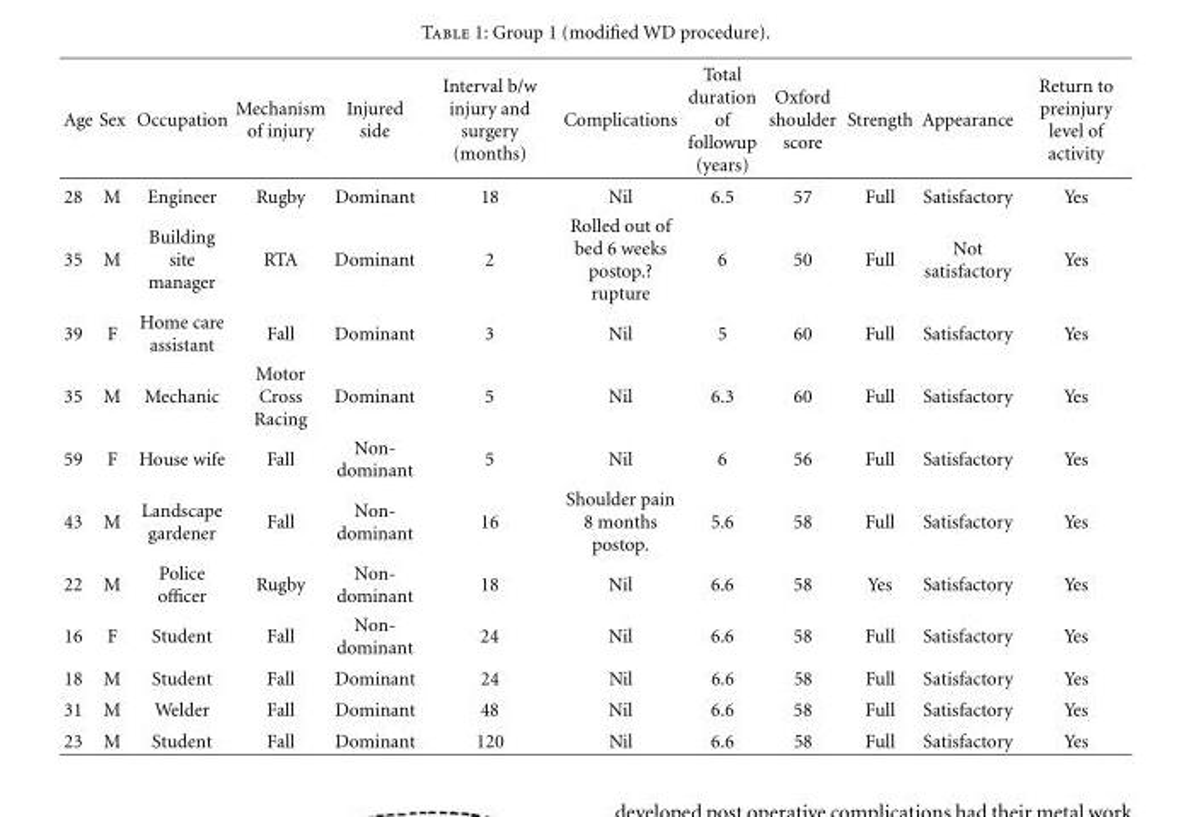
<table><thead><tr><td>Age</td><td>Sex</td><td>Occupation</td><td>Mechanism of injury</td><td>Injured side</td><td>Interval b/w injury and surgery (months)</td><td>Complications</td><td>Total duration of followup (years)</td><td>Oxford shoulder score</td><td>Strength</td><td>Appearance</td><td>Return to preinjury level of activity</td></tr></thead><tbody><tr><td>28</td><td>M</td><td>Engineer</td><td>Rugby</td><td>Dominant</td><td>18</td><td>Nil</td><td>6.5</td><td>57</td><td>Full</td><td>Satisfactory</td><td>Yes</td></tr><tr><td>35</td><td>M</td><td>Building site manager</td><td>RTA</td><td>Dominant</td><td>2</td><td>Rolled out of bed 6 weeks postop.? rupture</td><td>6</td><td>50</td><td>Full</td><td>Not satisfactory</td><td>Yes</td></tr><tr><td>39</td><td>F</td><td>Home care assistant</td><td>Fall</td><td>Dominant</td><td>3</td><td>Nil</td><td>5</td><td>60</td><td>Full</td><td>Satisfactory</td><td>Yes</td></tr><tr><td>35</td><td>M</td><td>Mechanic</td><td>Motor Cross Racing</td><td>Dominant</td><td>5</td><td>Nil</td><td>6.3</td><td>60</td><td>Full</td><td>Satisfactory</td><td>Yes</td></tr><tr><td>59</td><td>F</td><td>House wife</td><td>Fall</td><td>Non- dominant</td><td>5</td><td>Nil</td><td>6</td><td>56</td><td>Full</td><td>Satisfactory</td><td>Yes</td></tr><tr><td>43</td><td>M</td><td>Landscape gardener</td><td>Fall</td><td>Non- dominant</td><td>16</td><td>Shoulder pain 8 months postop.</td><td>5.6</td><td>58</td><td>Full</td><td>Satisfactory</td><td>Yes</td></tr><tr><td>22</td><td>M</td><td>Police officer</td><td>Rugby</td><td>Non- dominant</td><td>18</td><td>Nil</td><td>6.6</td><td>58</td><td>Yes</td><td>Satisfactory</td><td>Yes</td></tr><tr><td>16</td><td>F</td><td>Student</td><td>Fall</td><td>Non- dominant</td><td>24</td><td>Nil</td><td>6.6</td><td>58</td><td>Full</td><td>Satisfactory</td><td>Yes</td></tr><tr><td>18</td><td>M</td><td>Student</td><td>Fall</td><td>Dominant</td><td>24</td><td>Nil</td><td>6.6</td><td>58</td><td>Full</td><td>Satisfactory</td><td>Yes</td></tr><tr><td>31</td><td>M</td><td>Welder</td><td>Fall</td><td>Dominant</td><td>48</td><td>Nil</td><td>6.6</td><td>58</td><td>Full</td><td>Satisfactory</td><td>Yes</td></tr><tr><td>23</td><td>M</td><td>Student</td><td>Fall</td><td>Dominant</td><td>120</td><td>Nil</td><td>6.6</td><td>58</td><td>Full</td><td>Satisfactory</td><td>Yes</td></tr></tbody></table>